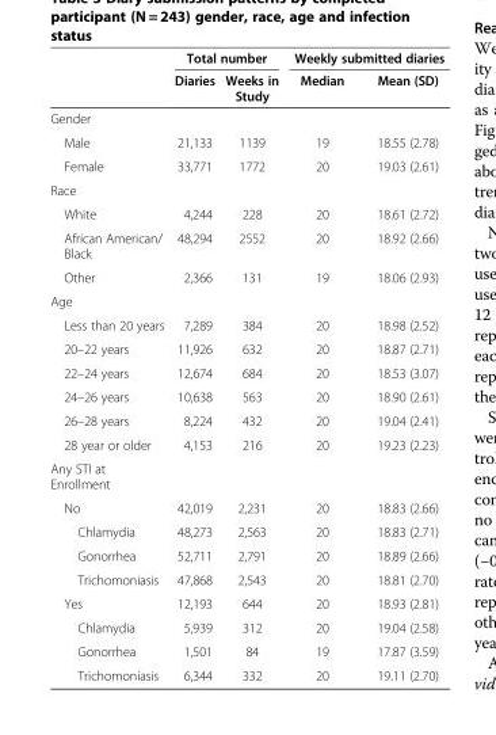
<table><thead><tr><td rowspan="2"></td><td colspan="2">Total number</td><td colspan="2">Weekly submitted diaries</td></tr><tr><td>Diaries</td><td>Weeks in Study</td><td>Median</td><td>Mean (SD)</td></tr></thead><tbody><tr><td colspan="5">Gender</td></tr><tr><td>Male</td><td>21,133</td><td>1139</td><td>19</td><td>18.55 (2.78)</td></tr><tr><td>Female</td><td>33,771</td><td>1772</td><td>20</td><td>19.03 (2.61)</td></tr><tr><td colspan="5">Race</td></tr><tr><td>White</td><td>4,244</td><td>228</td><td>20</td><td>18.61 (2.72)</td></tr><tr><td>African American/ Black</td><td>48,294</td><td>2552</td><td>20</td><td>18.92 (2.66)</td></tr><tr><td>Other</td><td>2,366</td><td>131</td><td>19</td><td>18.06 (2.93)</td></tr><tr><td colspan="5">Age</td></tr><tr><td>Less than 20 years</td><td>7,289</td><td>384</td><td>20</td><td>18.98 (2.52)</td></tr><tr><td>20–22 years</td><td>11,926</td><td>632</td><td>20</td><td>18.87 (2.71)</td></tr><tr><td>22–24 years</td><td>12,674</td><td>684</td><td>20</td><td>18.53 (3.07)</td></tr><tr><td>24–26 years</td><td>10,638</td><td>563</td><td>20</td><td>18.90 (2.61)</td></tr><tr><td>26–28 years</td><td>8,224</td><td>432</td><td>20</td><td>19.04 (2.41)</td></tr><tr><td>28 year or older</td><td>4,153</td><td>216</td><td>20</td><td>19.23 (2.23)</td></tr><tr><td colspan="5">Any STI at Enrollment</td></tr><tr><td>No</td><td>42,019</td><td>2,231</td><td>20</td><td>18.83 (2.66)</td></tr><tr><td>Chlamydia</td><td>48,273</td><td>2,563</td><td>20</td><td>18.83 (2.71)</td></tr><tr><td>Gonorrhea</td><td>52,711</td><td>2,791</td><td>20</td><td>18.89 (2.66)</td></tr><tr><td>Trichomoniasis</td><td>47,868</td><td>2,543</td><td>20</td><td>18.81 (2.70)</td></tr><tr><td>Yes</td><td>12,193</td><td>644</td><td>20</td><td>18.93 (2.81)</td></tr><tr><td>Chlamydia</td><td>5,939</td><td>312</td><td>20</td><td>19.04 (2.58)</td></tr><tr><td>Gonorrhea</td><td>1,501</td><td>84</td><td>19</td><td>17.87 (3.59)</td></tr><tr><td>Trichomoniasis</td><td>6,344</td><td>332</td><td>20</td><td>19.11 (2.70)</td></tr></tbody></table>